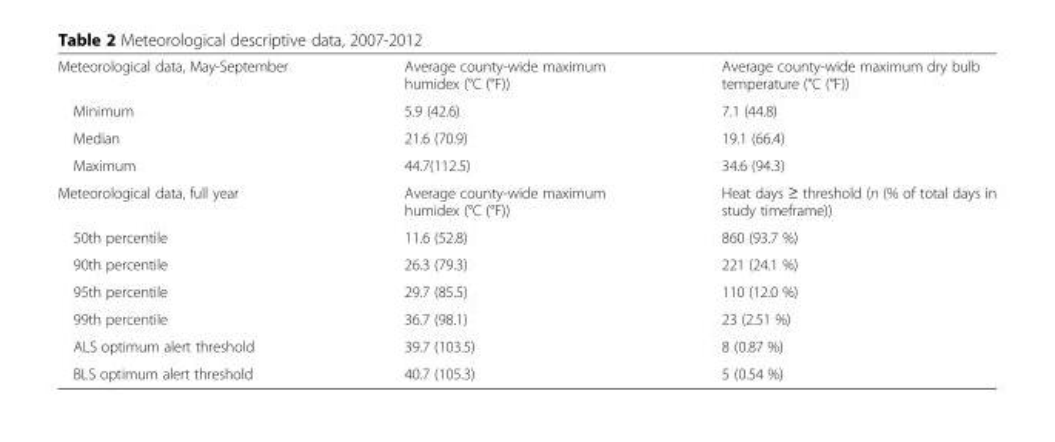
<table><tbody><tr><td>Meteorological data, May-September</td><td>Average county-wide maximum humidex (°C (°F))</td><td>Average county-wide maximum dry bulb temperature (°C (°F))</td></tr><tr><td>Minimum</td><td>5.9 (42.6)</td><td>7.1 (44.8)</td></tr><tr><td>Median</td><td>21.6 (70.9)</td><td>19.1 (66.4)</td></tr><tr><td>Maximum</td><td>44.7(112.5)</td><td>34.6 (94.3)</td></tr><tr><td>Meteorological data, full year</td><td>Average county-wide maximum humidex (°C (°F))</td><td>Heat days ≥ threshold (n (% of total days in study timeframe))</td></tr><tr><td>50th percentile</td><td>11.6 (52.8)</td><td>860 (93.7 %)</td></tr><tr><td>90th percentile</td><td>26.3 (79.3)</td><td>221 (24.1 %)</td></tr><tr><td>95th percentile</td><td>29.7 (85.5)</td><td>110 (12.0 %)</td></tr><tr><td>99th percentile</td><td>36.7 (98.1)</td><td>23 (2.51 %)</td></tr><tr><td>ALS optimum alert threshold</td><td>39.7 (103.5)</td><td>8 (0.87 %)</td></tr><tr><td>BLS optimum alert threshold</td><td>40.7 (105.3)</td><td>5 (0.54 %)</td></tr></tbody></table>